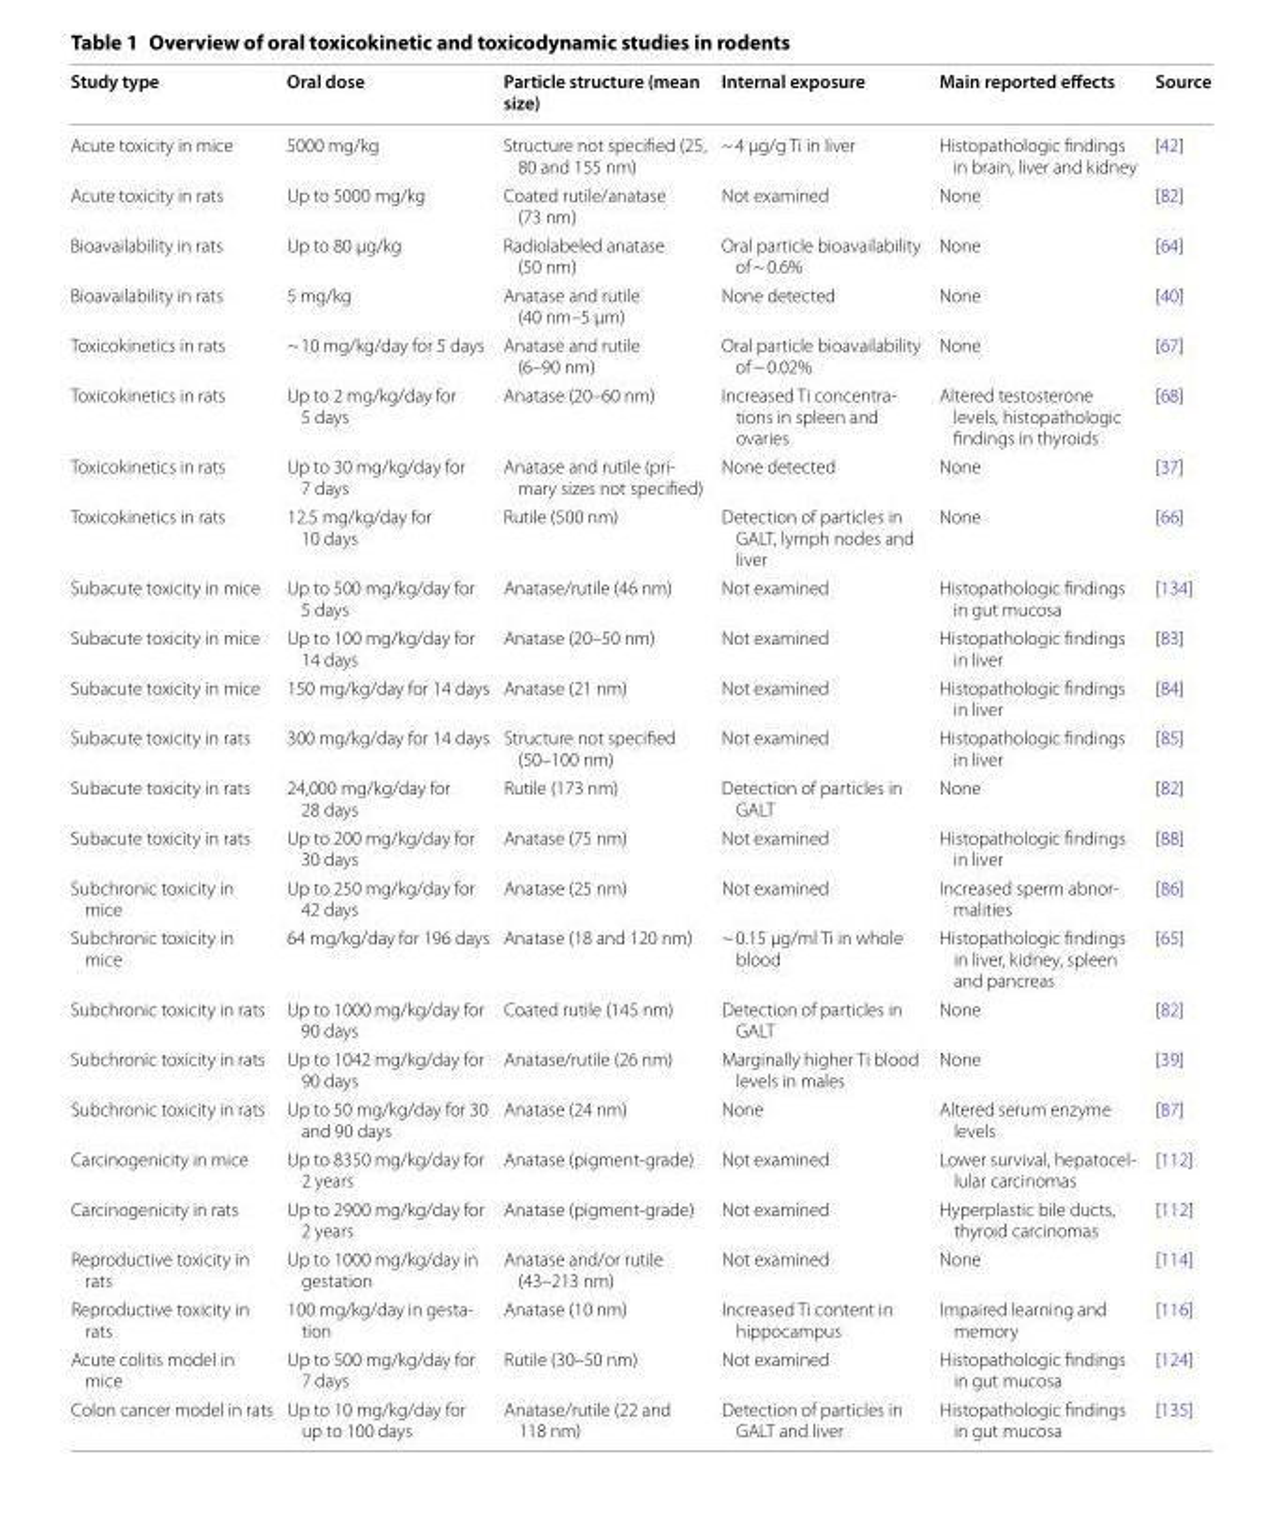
<table><thead><tr><td>Study type</td><td>Oral dose</td><td>Particle structure (mean size)</td><td>Internal exposure</td><td>Main reported effects</td><td>Source</td></tr></thead><tbody><tr><td>Acute toxicity in mice</td><td>5000 mg/kg</td><td>Structure not specified (25, 80 and 155 nm)</td><td>~ 4 µg/g Ti in liver</td><td>Histopathologic findings in brain, liver and kidney</td><td>[42]</td></tr><tr><td>Acute toxicity in rats</td><td>Up to 5000 mg/kg</td><td>Coated rutile/anatase (73 nm)</td><td>Not examined</td><td>None</td><td>[82]</td></tr><tr><td>Bioavailability in rats</td><td>Up to 80 µg/kg</td><td>Radiolabeled anatase (50 nm)</td><td>Oral particle bioavailability of ~ 0.6%</td><td>None</td><td>[64]</td></tr><tr><td>Bioavailability in rats</td><td>5 mg/kg</td><td>Anatase and rutile (40 nm–5 µm)</td><td>None detected</td><td>None</td><td>[40]</td></tr><tr><td>Toxicokinetics in rats</td><td>~ 10 mg/kg/day for 5 days</td><td>Anatase and rutile (6–90 nm)</td><td>Oral particle bioavailability of ~ 0.02%</td><td>None</td><td>[67]</td></tr><tr><td>Toxicokinetics in rats</td><td>Up to 2 mg/kg/day for 5 days</td><td>Anatase (20–60 nm)</td><td>Increased Ti concentra- tions in spleen and ovaries</td><td>Altered testosterone levels, histopathologic findings in thyroids</td><td>[68]</td></tr><tr><td>Toxicokinetics in rats</td><td>Up to 30 mg/kg/day for 7 days</td><td>Anatase and rutile (pri- mary sizes not specified)</td><td>None detected</td><td>None</td><td>[37]</td></tr><tr><td>Toxicokinetics in rats</td><td>12.5 mg/kg/day for 10 days</td><td>Rutile (500 nm)</td><td>Detection of particles in GALT, lymph nodes and liver</td><td>None</td><td>[66]</td></tr><tr><td>Subacute toxicity in mice</td><td>Up to 500 mg/kg/day for 5 days</td><td>Anatase/rutile (46 nm)</td><td>Not examined</td><td>Histopathologic findings in gut mucosa</td><td>[134]</td></tr><tr><td>Subacute toxicity in mice</td><td>Up to 100 mg/kg/day for 14 days</td><td>Anatase (20–50 nm)</td><td>Not examined</td><td>Histopathologic findings in liver</td><td>[83]</td></tr><tr><td>Subacute toxicity in mice</td><td>150 mg/kg/day for 14 days</td><td>Anatase (21 nm)</td><td>Not examined</td><td>Histopathologic findings in liver</td><td>[84]</td></tr><tr><td>Subacute toxicity in rats</td><td>300 mg/kg/day for 14 days</td><td>Structure not specified (50–100 nm)</td><td>Not examined</td><td>Histopathologic findings in liver</td><td>[85]</td></tr><tr><td>Subacute toxicity in rats</td><td>24,000 mg/kg/day for 28 days</td><td>Rutile (173 nm)</td><td>Detection of particles in GALT</td><td>None</td><td>[82]</td></tr><tr><td>Subacute toxicity in rats</td><td>Up to 200 mg/kg/day for 30 days</td><td>Anatase (75 nm)</td><td>Not examined</td><td>Histopathologic findings in liver</td><td>[88]</td></tr><tr><td>Subchronic toxicity in mice</td><td>Up to 250 mg/kg/day for 42 days</td><td>Anatase (25 nm)</td><td>Not examined</td><td>Increased sperm abnor- malities</td><td>[86]</td></tr><tr><td>Subchronic toxicity in mice</td><td>64 mg/kg/day for 196 days</td><td>Anatase (18 and 120 nm)</td><td>~ 0.15 µg/ml Ti in whole blood</td><td>Histopathologic findings in liver, kidney, spleen and pancreas</td><td>[65]</td></tr><tr><td>Subchronic toxicity in rats</td><td>Up to 1000 mg/kg/day for 90 days</td><td>Coated rutile (145 nm)</td><td>Detection of particles in GALT</td><td>None</td><td>[82]</td></tr><tr><td>Subchronic toxicity in rats</td><td>Up to 1042 mg/kg/day for 90 days</td><td>Anatase/rutile (26 nm)</td><td>Marginally higher Ti blood levels in males</td><td>None</td><td>[39]</td></tr><tr><td>Subchronic toxicity in rats</td><td>Up to 50 mg/kg/day for 30 and 90 days</td><td>Anatase (24 nm)</td><td>None</td><td>Altered serum enzyme levels</td><td>[87]</td></tr><tr><td>Carcinogenicity in mice</td><td>Up to 8350 mg/kg/day for 2 years</td><td>Anatase (pigment-grade)</td><td>Not examined</td><td>Lower survival, hepatocel- lular carcinomas</td><td>[112]</td></tr><tr><td>Carcinogenicity in rats</td><td>Up to 2900 mg/kg/day for 2 years</td><td>Anatase (pigment-grade)</td><td>Not examined</td><td>Hyperplastic bile ducts, thyroid carcinomas</td><td>[112]</td></tr><tr><td>Reproductive toxicity in rats</td><td>Up to 1000 mg/kg/day in gestation</td><td>Anatase and/or rutile (43–213 nm)</td><td>Not examined</td><td>None</td><td>[114]</td></tr><tr><td>Reproductive toxicity in rats</td><td>100 mg/kg/day in gesta- tion</td><td>Anatase (10 nm)</td><td>Increased Ti content in hippocampus</td><td>Impaired learning and memory</td><td>[116]</td></tr><tr><td>Acute colitis model in mice</td><td>Up to 500 mg/kg/day for 7 days</td><td>Rutile (30–50 nm)</td><td>Not examined</td><td>Histopathologic findings in gut mucosa</td><td>[124]</td></tr><tr><td>Colon cancer model in rats</td><td>Up to 10 mg/kg/day for up to 100 days</td><td>Anatase/rutile (22 and 118 nm)</td><td>Detection of particles in GALT and liver</td><td>Histopathologic findings in gut mucosa</td><td>[135]</td></tr></tbody></table>